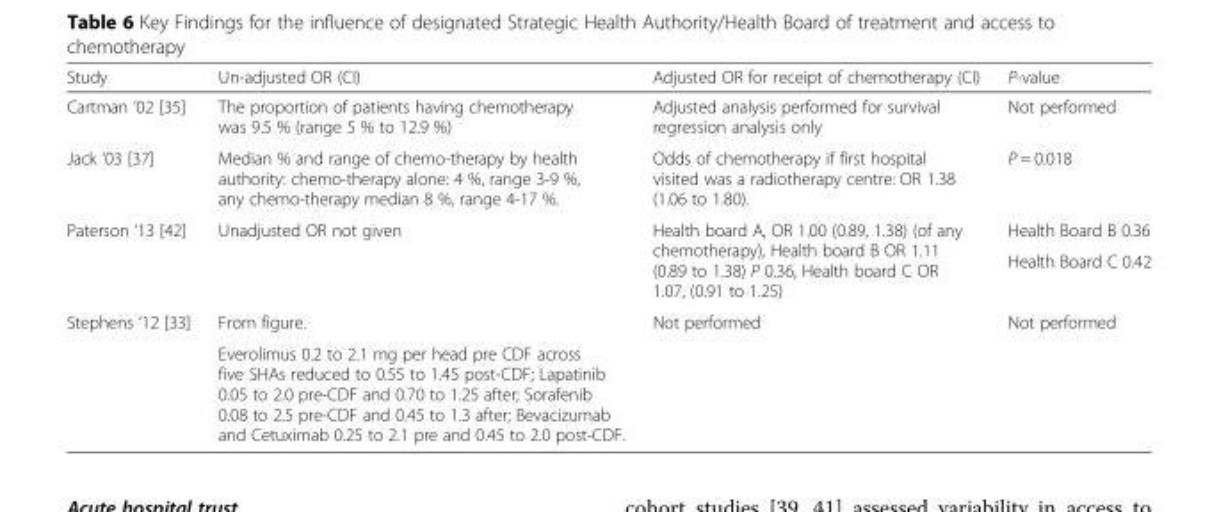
<table><thead><tr><td>Study</td><td>Un-adjusted OR (CI)</td><td>Adjusted OR for receipt of chemotherapy (CI)</td><td>P-value</td></tr></thead><tbody><tr><td>Cartman ‘02 [35]</td><td>The proportion of patients having chemotherapy was 9.5 % (range 5 % to 12.9 %)</td><td>Adjusted analysis performed for survival regression analysis only</td><td>Not performed</td></tr><tr><td>Jack ‘03 [37]</td><td>Median % and range of chemo-therapy by health authority: chemo-therapy alone: 4 %, range 3-9 %, any chemo-therapy median 8 %, range 4-17 %.</td><td>Odds of chemotherapy if first hospital visited was a radiotherapy centre: OR 1.38 (1.06 to 1.80).</td><td>P = 0.018</td></tr><tr><td rowspan="2">Paterson ‘13 [42]</td><td rowspan="2">Unadjusted OR not given</td><td rowspan="2">Health board A, OR 1.00 (0.89, 1.38) (of any chemotherapy), Health board B OR 1.11 (0.89 to 1.38) P 0.36, Health board C OR 1.07, (0.91 to 1.25)</td><td>Health Board B 0.36</td></tr><tr><td>Health Board C 0.42</td></tr><tr><td rowspan="2">Stephens ‘12 [33]</td><td>From figure.</td><td rowspan="2">Not performed</td><td rowspan="2">Not performed</td></tr><tr><td>Everolimus 0.2 to 2.1 mg per head pre CDF across five SHAs reduced to 0.55 to 1.45 post-CDF; Lapatinib 0.05 to 2.0 pre-CDF and 0.70 to 1.25 after; Sorafenib 0.08 to 2.5 pre-CDF and 0.45 to 1.3 after; Bevacizumab and Cetuximab 0.25 to 2.1 pre and 0.45 to 2.0 post-CDF.</td></tr></tbody></table>